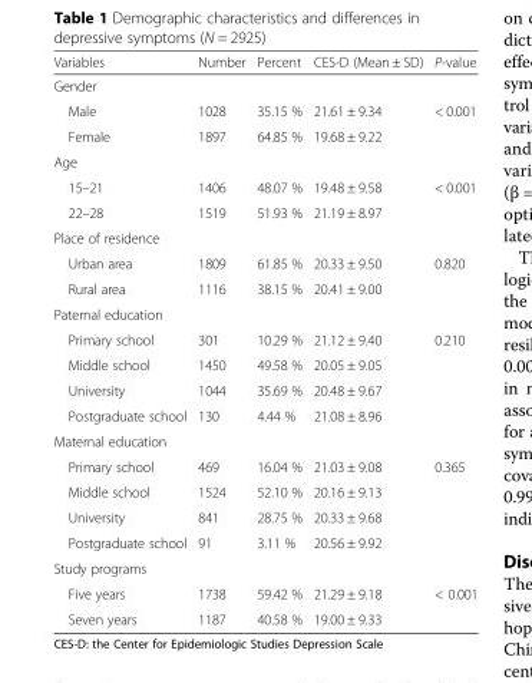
<table><thead><tr><td>Variables</td><td>Number</td><td>Percent</td><td>CES-D (Mean ± SD)</td><td>P-value</td></tr></thead><tbody><tr><td colspan="5">Gender</td></tr><tr><td>Male</td><td>1028</td><td>35.15 %</td><td>21.61 ± 9.34</td><td rowspan="2">&lt; 0.001</td></tr><tr><td>Female</td><td>1897</td><td>64.85 %</td><td>19.68 ± 9.22</td></tr><tr><td colspan="5">Age</td></tr><tr><td>15–21</td><td>1406</td><td>48.07 %</td><td>19.48 ± 9.58</td><td rowspan="2">&lt; 0.001</td></tr><tr><td>22–28</td><td>1519</td><td>51.93 %</td><td>21.19 ± 8.97</td></tr><tr><td colspan="5">Place of residence</td></tr><tr><td>Urban area</td><td>1809</td><td>61.85 %</td><td>20.33 ± 9.50</td><td rowspan="2">0.820</td></tr><tr><td>Rural area</td><td>1116</td><td>38.15 %</td><td>20.41 ± 9.00</td></tr><tr><td colspan="5">Paternal education</td></tr><tr><td>Primary school</td><td>301</td><td>10.29 %</td><td>21.12 ± 9.40</td><td rowspan="4">0.210</td></tr><tr><td>Middle school</td><td>1450</td><td>49.58 %</td><td>20.05 ± 9.05</td></tr><tr><td>University</td><td>1044</td><td>35.69 %</td><td>20.48 ± 9.67</td></tr><tr><td>Postgraduate school</td><td>130</td><td>4.44 %</td><td>21.08 ± 8.96</td></tr><tr><td colspan="5">Maternal education</td></tr><tr><td>Primary school</td><td>469</td><td>16.04 %</td><td>21.03 ± 9.08</td><td rowspan="4">0.365</td></tr><tr><td>Middle school</td><td>1524</td><td>52.10 %</td><td>20.16 ± 9.13</td></tr><tr><td>University</td><td>841</td><td>28.75 %</td><td>20.33 ± 9.68</td></tr><tr><td>Postgraduate school</td><td>91</td><td>3.11 %</td><td>20.56 ± 9.92</td></tr><tr><td colspan="5">Study programs</td></tr><tr><td>Five years</td><td>1738</td><td>59.42 %</td><td>21.29 ± 9.18</td><td rowspan="2">&lt; 0.001</td></tr><tr><td>Seven years</td><td>1187</td><td>40.58 %</td><td>19.00 ± 9.33</td></tr></tbody></table>